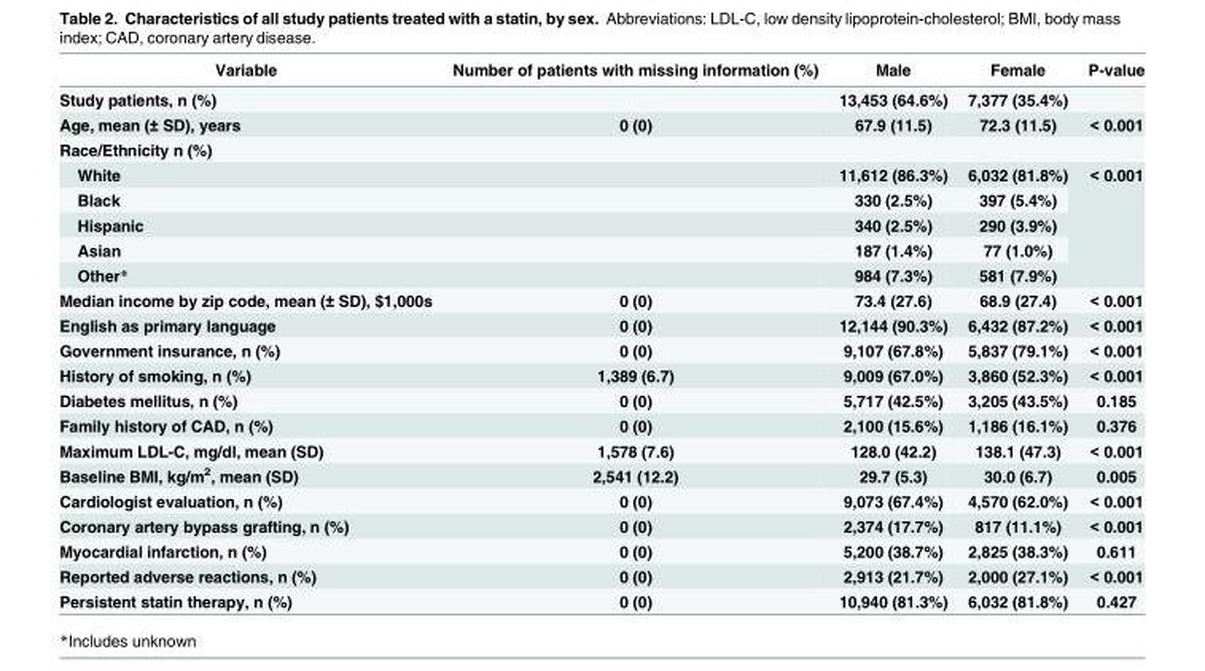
<table><thead><tr><td>Variable</td><td>Number of patients with missing information (%)</td><td>Male</td><td>Female</td><td>P-value</td></tr></thead><tbody><tr><td>Study patients, n (%)</td><td></td><td>13,453 (64.6%)</td><td>7,377 (35.4%)</td><td></td></tr><tr><td>Age, mean (± SD), years</td><td>0 (0)</td><td>67.9 (11.5)</td><td>72.3 (11.5)</td><td>&lt; 0.001</td></tr><tr><td colspan="5">Race/Ethnicity n (%)</td></tr><tr><td>White</td><td></td><td>11,612 (86.3%)</td><td>6,032 (81.8%)</td><td rowspan="5">&lt; 0.001</td></tr><tr><td>Black</td><td></td><td>330 (2.5%)</td><td>397 (5.4%)</td></tr><tr><td>Hispanic</td><td></td><td>340 (2.5%)</td><td>290 (3.9%)</td></tr><tr><td>Asian</td><td></td><td>187 (1.4%)</td><td>77 (1.0%)</td></tr><tr><td>Other*</td><td></td><td>984 (7.3%)</td><td>581 (7.9%)</td></tr><tr><td>Median income by zip code, mean (± SD), $1,000s</td><td>0 (0)</td><td>73.4 (27.6)</td><td>68.9 (27.4)</td><td>&lt; 0.001</td></tr><tr><td>English as primary language</td><td>0 (0)</td><td>12,144 (90.3%)</td><td>6,432 (87.2%)</td><td>&lt; 0.001</td></tr><tr><td>Government insurance, n (%)</td><td>0 (0)</td><td>9,107 (67.8%)</td><td>5,837 (79.1%)</td><td>&lt; 0.001</td></tr><tr><td>History of smoking, n (%)</td><td>1,389 (6.7)</td><td>9,009 (67.0%)</td><td>3,860 (52.3%)</td><td>&lt; 0.001</td></tr><tr><td>Diabetes mellitus, n (%)</td><td>0 (0)</td><td>5,717 (42.5%)</td><td>3,205 (43.5%)</td><td>0.185</td></tr><tr><td>Family history of CAD, n (%)</td><td>0 (0)</td><td>2,100 (15.6%)</td><td>1,186 (16.1%)</td><td>0.376</td></tr><tr><td>Maximum LDL-C, mg/dl, mean (SD)</td><td>1,578 (7.6)</td><td>128.0 (42.2)</td><td>138.1 (47.3)</td><td>&lt; 0.001</td></tr><tr><td>Baseline BMI, kg/m<sup>2</sup>, mean (SD)</td><td>2,541 (12.2)</td><td>29.7 (5.3)</td><td>30.0 (6.7)</td><td>0.005</td></tr><tr><td>Cardiologist evaluation, n (%)</td><td>0 (0)</td><td>9,073 (67.4%)</td><td>4,570 (62.0%)</td><td>&lt; 0.001</td></tr><tr><td>Coronary artery bypass grafting, n (%)</td><td>0 (0)</td><td>2,374 (17.7%)</td><td>817 (11.1%)</td><td>&lt; 0.001</td></tr><tr><td>Myocardial infarction, n (%)</td><td>0 (0)</td><td>5,200 (38.7%)</td><td>2,825 (38.3%)</td><td>0.611</td></tr><tr><td>Reported adverse reactions, n (%)</td><td>0 (0)</td><td>2,913 (21.7%)</td><td>2,000 (27.1%)</td><td>&lt; 0.001</td></tr><tr><td>Persistent statin therapy, n (%)</td><td>0 (0)</td><td>10,940 (81.3%)</td><td>6,032 (81.8%)</td><td>0.427</td></tr></tbody></table>